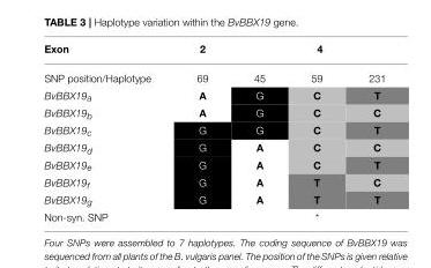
<table><thead><tr><td rowspan="2">Exon SNP position/Haplotype</td><td rowspan="2">2 69</td><td colspan="3">4</td></tr><tr><td>45</td><td>59</td><td>231</td></tr></thead><tbody><tr><td>BvBBX19a</td><td>A</td><td>G</td><td>C</td><td>T</td></tr><tr><td>BvBBX19b</td><td>A</td><td>G</td><td>C</td><td>C</td></tr><tr><td>BvBBX19c</td><td>G</td><td>G</td><td>C</td><td>T</td></tr><tr><td>BvBBX19d</td><td>G</td><td>A</td><td>C</td><td>C</td></tr><tr><td>BvBBX19e</td><td>G</td><td>A</td><td>C</td><td>T</td></tr><tr><td>BvBBX19f</td><td>G</td><td>A</td><td>T</td><td>C</td></tr><tr><td>BvBBX19g</td><td>G</td><td>A</td><td>T</td><td>T</td></tr><tr><td>Non-syn. SNP</td><td></td><td></td><td>*</td><td></td></tr></tbody></table>